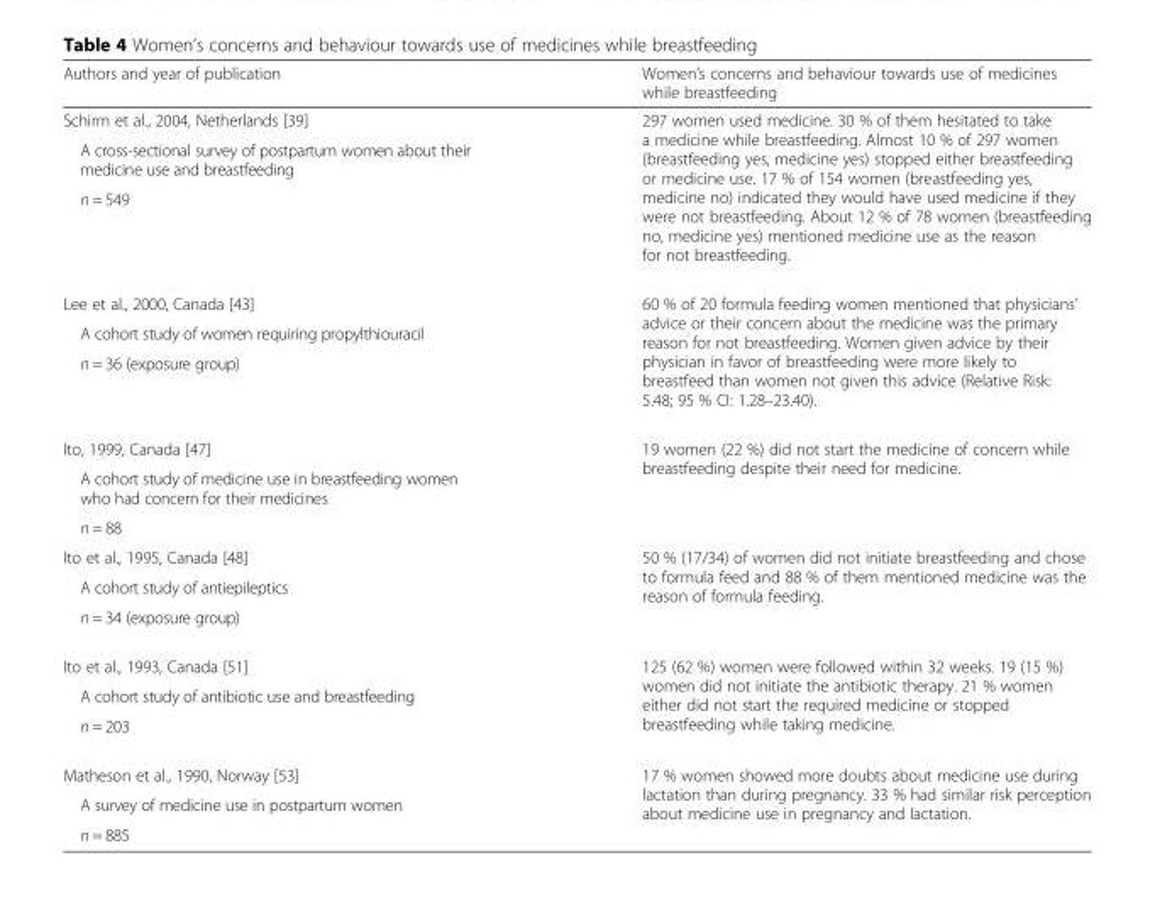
<table><thead><tr><td>Authors and year of publication</td><td>Women’s concerns and behaviour towards use of medicines while breastfeeding</td></tr></thead><tbody><tr><td>Schirm et al., 2004, Netherlands [39]</td><td rowspan="3">297 women used medicine. 30 % of them hesitated to take a medicine while breastfeeding. Almost 10 % of 297 women (breastfeeding yes, medicine yes) stopped either breastfeeding or medicine use. 17 % of 154 women (breastfeeding yes, medicine no) indicated they would have used medicine if they were not breastfeeding. About 12 % of 78 women (breastfeeding no, medicine yes) mentioned medicine use as the reason for not breastfeeding.</td></tr><tr><td>A cross-sectional survey of postpartum women about their medicine use and breastfeeding</td></tr><tr><td>n = 549</td></tr><tr><td>Lee et al., 2000, Canada [43]</td><td rowspan="3">60 % of 20 formula feeding women mentioned that physicians’ advice or their concern about the medicine was the primary reason for not breastfeeding. Women given advice by their physician in favor of breastfeeding were more likely to breastfeed than women not given this advice (Relative Risk: 5.48; 95 % CI: 1.28–23.40).</td></tr><tr><td>A cohort study of women requiring propylthiouracil</td></tr><tr><td>n = 36 (exposure group)</td></tr><tr><td>Ito, 1999, Canada [47]</td><td rowspan="3">19 women (22 %) did not start the medicine of concern while breastfeeding despite their need for medicine.</td></tr><tr><td>A cohort study of medicine use in breastfeeding women who had concern for their medicines</td></tr><tr><td>n = 88</td></tr><tr><td>Ito et al., 1995, Canada [48]</td><td rowspan="3">50 % (17/34) of women did not initiate breastfeeding and chose to formula feed and 88 % of them mentioned medicine was the reason of formula feeding.</td></tr><tr><td>A cohort study of antiepileptics</td></tr><tr><td>n = 34 (exposure group)</td></tr><tr><td>Ito et al., 1993, Canada [51]</td><td rowspan="3">125 (62 %) women were followed within 32 weeks. 19 (15 %) women did not initiate the antibiotic therapy. 21 % women either did not start the required medicine or stopped breastfeeding while taking medicine.</td></tr><tr><td>A cohort study of antibiotic use and breastfeeding</td></tr><tr><td>n = 203</td></tr><tr><td>Matheson et al., 1990, Norway [53]</td><td rowspan="3">17 % women showed more doubts about medicine use during lactation than during pregnancy. 33 % had similar risk perception about medicine use in pregnancy and lactation.</td></tr><tr><td>A survey of medicine use in postpartum women</td></tr><tr><td>n = 885</td></tr></tbody></table>